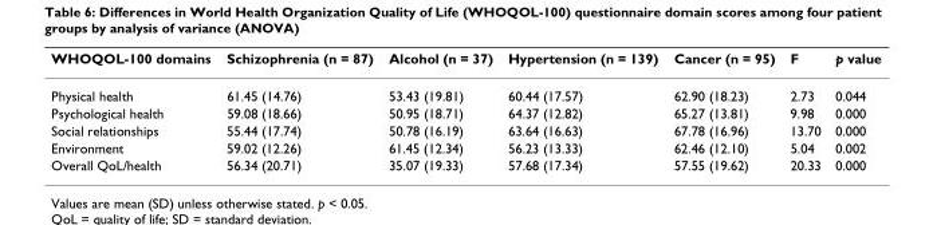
<table><thead><tr><td>WHOQOL-100 domains</td><td>Schizophrenia (n = 87)</td><td>Alcohol (n = 37)</td><td>Hypertension (n = 139)</td><td>Cancer (n = 95)</td><td>F</td><td>p value</td></tr></thead><tbody><tr><td>Physical health</td><td>61.45 (14.76)</td><td>53.43 (19.81)</td><td>60.44 (17.57)</td><td>62.90 (18.23)</td><td>2.73</td><td>0.044</td></tr><tr><td>Psychological health</td><td>59.08 (18.66)</td><td>50.95 (18.71)</td><td>64.37 (12.82)</td><td>65.27 (13.81)</td><td>9.98</td><td>0.000</td></tr><tr><td>Social relationships</td><td>55.44 (17.74)</td><td>50.78 (16.19)</td><td>63.64 (16.63)</td><td>67.78 (16.96)</td><td>13.70</td><td>0.000</td></tr><tr><td>Environment</td><td>59.02 (12.26)</td><td>61.45 (12.34)</td><td>56.23 (13.33)</td><td>62.46 (12.10)</td><td>5.04</td><td>0.002</td></tr><tr><td>Overall QoL/health</td><td>56.34 (20.71)</td><td>35.07 (19.33)</td><td>57.68 (17.34)</td><td>57.55 (19.62)</td><td>20.33</td><td>0.000</td></tr></tbody></table>